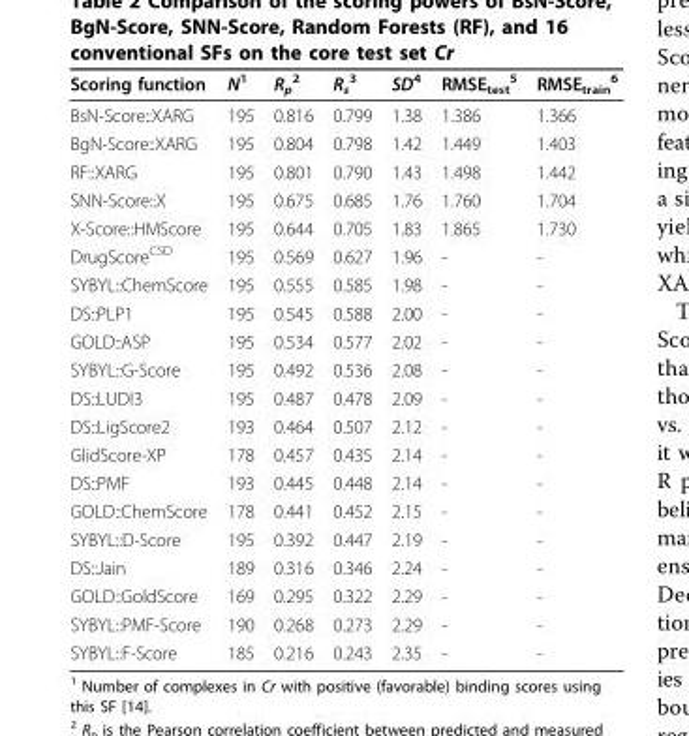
<table><thead><tr><td>Scoring function</td><td>N<sup>1</sup></td><td>R<sub>p</sub> <sup>2</sup></td><td>R<sub>s</sub> <sup>3</sup></td><td>SD<sup>4</sup></td><td>RMSE<sub>test</sub> <sup>5</sup></td><td>RMSE<sub>train</sub> <sup>6</sup></td></tr></thead><tbody><tr><td>BsN-Score::XARG</td><td>195</td><td>0.816</td><td>0.799</td><td>1.38</td><td>1.386</td><td>1.366</td></tr><tr><td>BgN-Score::XARG</td><td>195</td><td>0.804</td><td>0.798</td><td>1.42</td><td>1.449</td><td>1.403</td></tr><tr><td>RF::XARG</td><td>195</td><td>0.801</td><td>0.790</td><td>1.43</td><td>1.498</td><td>1.442</td></tr><tr><td>SNN-Score::X</td><td>195</td><td>0.675</td><td>0.685</td><td>1.76</td><td>1.760</td><td>1.704</td></tr><tr><td>X-Score::HMScore</td><td>195</td><td>0.644</td><td>0.705</td><td>1.83</td><td>1.865</td><td>1.730</td></tr><tr><td>DrugScore<sup>CSD</sup></td><td>195</td><td>0.569</td><td>0.627</td><td>1.96</td><td>-</td><td>-</td></tr><tr><td>SYBYL::ChemScore</td><td>195</td><td>0.555</td><td>0.585</td><td>1.98</td><td>-</td><td>-</td></tr><tr><td>DS::PLP1</td><td>195</td><td>0.545</td><td>0.588</td><td>2.00</td><td>-</td><td>-</td></tr><tr><td>GOLD::ASP</td><td>195</td><td>0.534</td><td>0.577</td><td>2.02</td><td>-</td><td>-</td></tr><tr><td>SYBYL::G-Score</td><td>195</td><td>0.492</td><td>0.536</td><td>2.08</td><td>-</td><td>-</td></tr><tr><td>DS::LUDI3</td><td>195</td><td>0.487</td><td>0.478</td><td>2.09</td><td>-</td><td>-</td></tr><tr><td>DS::LigScore2</td><td>193</td><td>0.464</td><td>0.507</td><td>2.12</td><td>-</td><td>-</td></tr><tr><td>GlidScore-XP</td><td>178</td><td>0.457</td><td>0.435</td><td>2.14</td><td>-</td><td>-</td></tr><tr><td>DS::PMF</td><td>193</td><td>0.445</td><td>0.448</td><td>2.14</td><td>-</td><td>-</td></tr><tr><td>GOLD::ChemScore</td><td>178</td><td>0.441</td><td>0.452</td><td>2.15</td><td>-</td><td>-</td></tr><tr><td>SYBYL::D-Score</td><td>195</td><td>0.392</td><td>0.447</td><td>2.19</td><td>-</td><td>-</td></tr><tr><td>DS::Jain</td><td>189</td><td>0.316</td><td>0.346</td><td>2.24</td><td>-</td><td>-</td></tr><tr><td>GOLD::GoldScore</td><td>169</td><td>0.295</td><td>0.322</td><td>2.29</td><td>-</td><td>-</td></tr><tr><td>SYBYL::PMF-Score</td><td>190</td><td>0.268</td><td>0.273</td><td>2.29</td><td>-</td><td>-</td></tr><tr><td>SYBYL::F-Score</td><td>185</td><td>0.216</td><td>0.243</td><td>2.35</td><td>-</td><td>-</td></tr></tbody></table>